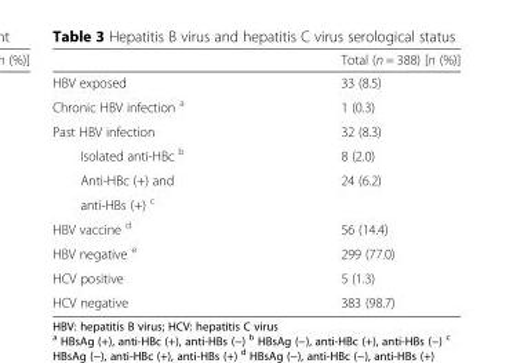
<table><thead><tr><td></td><td>Total (n = 388) [n (%)]</td></tr></thead><tbody><tr><td>HBV exposed</td><td>33 (8.5)</td></tr><tr><td>Chronic HBV infection <sup>a</sup></td><td>1 (0.3)</td></tr><tr><td>Past HBV infection</td><td>32 (8.3)</td></tr><tr><td>Isolated anti-HBc <sup>b</sup></td><td>8 (2.0)</td></tr><tr><td>Anti-HBc (+) and</td><td>24 (6.2)</td></tr><tr><td colspan="2">anti-HBs (+) <sup>c</sup></td></tr><tr><td>HBV vaccine <sup>d</sup></td><td>56 (14.4)</td></tr><tr><td>HBV negative <sup>e</sup></td><td>299 (77.0)</td></tr><tr><td>HCV positive</td><td>5 (1.3)</td></tr><tr><td>HCV negative</td><td>383 (98.7)</td></tr></tbody></table>